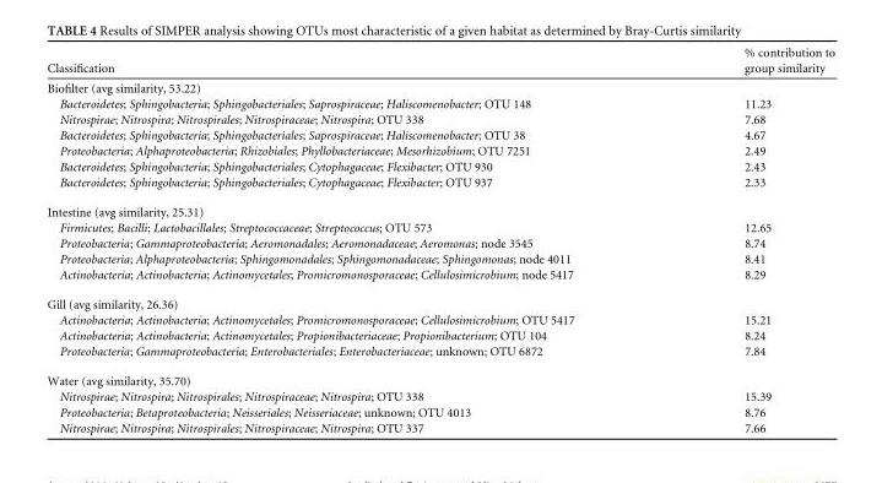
<table><thead><tr><td>Classification</td><td>% contribution to group similarity</td></tr></thead><tbody><tr><td colspan="2">Biofilter (avg similarity, 53.22)</td></tr><tr><td>Bacteroidetes; Sphingobacteria; Sphingobacteriales; Saprospiraceae; Haliscomenobacter; OTU 148</td><td>11.23</td></tr><tr><td>Nitrospirae; Nitrospira; Nitrospirales; Nitrospiraceae; Nitrospira; OTU 338</td><td>7.68</td></tr><tr><td>Bacteroidetes; Sphingobacteria; Sphingobacteriales; Saprospiraceae; Haliscomenobacter; OTU 38</td><td>4.67</td></tr><tr><td>Proteobacteria; Alphaproteobacteria; Rhizobiales; Phyllobacteriaceae; Mesorhizobium; OTU 7251</td><td>2.49</td></tr><tr><td>Bacteroidetes; Sphingobacteria; Sphingobacteriales; Cytophagaceae; Flexibacter; OTU 930</td><td>2.43</td></tr><tr><td>Bacteroidetes; Sphingobacteria; Sphingobacteriales; Cytophagaceae; Flexibacter; OTU 937</td><td>2.33</td></tr><tr><td colspan="2">Intestine (avg similarity, 25.31)</td></tr><tr><td>Firmicutes; Bacilli; Lactobacillales; Streptococcaceae; Streptococcus; OTU 573</td><td>12.65</td></tr><tr><td>Proteobacteria; Gammaproteobacteria; Aeromonadales; Aeromonadaceae; Aeromonas; node 3545</td><td>8.74</td></tr><tr><td>Proteobacteria; Alphaproteobacteria; Sphingomonadales; Sphingomonadaceae; Sphingomonas; node 4011</td><td>8.41</td></tr><tr><td>Actinobacteria; Actinobacteria; Actinomycetales; Promicromonosporaceae; Cellulosimicrobium; node 5417</td><td>8.29</td></tr><tr><td colspan="2">Gill (avg similarity, 26.36)</td></tr><tr><td>Actinobacteria; Actinobacteria; Actinomycetales; Promicromonosporaceae; Cellulosimicrobium; OTU 5417</td><td>15.21</td></tr><tr><td>Actinobacteria; Actinobacteria; Actinomycetales; Propionibacteriaceae; Propionibacterium; OTU 104</td><td>8.24</td></tr><tr><td>Proteobacteria; Gammaproteobacteria; Enterobacteriales; Enterobacteriaceae; unknown; OTU 6872</td><td>7.84</td></tr><tr><td colspan="2">Water (avg similarity, 35.70)</td></tr><tr><td>Nitrospirae; Nitrospira; Nitrospirales; Nitrospiraceae; Nitrospira; OTU 338</td><td>15.39</td></tr><tr><td>Proteobacteria; Betaproteobacteria; Neisseriales; Neisseriaceae; unknown; OTU 4013</td><td>8.76</td></tr><tr><td>Nitrospirae; Nitrospira; Nitrospirales; Nitrospiraceae; Nitrospira; OTU 337</td><td>7.66</td></tr></tbody></table>